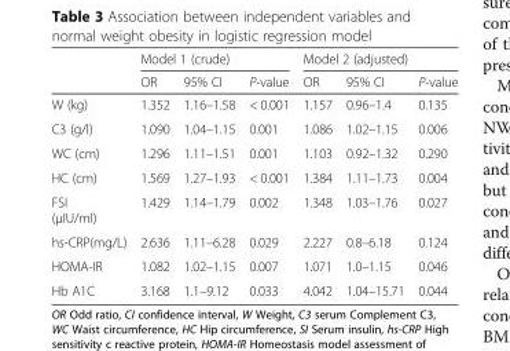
<table><thead><tr><td rowspan="2"></td><td colspan="3">Model 1 (crude)</td><td colspan="3">Model 2 (adjusted)</td></tr><tr><td>OR</td><td>95% CI</td><td>P-value</td><td>OR</td><td>95% CI</td><td>P-value</td></tr></thead><tbody><tr><td>W (kg)</td><td>1.352</td><td>1.16–1.58</td><td>&lt; 0.001</td><td>1.157</td><td>0.96–1.4</td><td>0.135</td></tr><tr><td>C3 (g/l)</td><td>1.090</td><td>1.04–1.15</td><td>0.001</td><td>1.086</td><td>1.02–1.15</td><td>0.006</td></tr><tr><td>WC (cm)</td><td>1.296</td><td>1.11–1.51</td><td>0.001</td><td>1.103</td><td>0.92–1.32</td><td>0.290</td></tr><tr><td>HC (cm)</td><td>1.569</td><td>1.27–1.93</td><td>&lt; 0.001</td><td>1.384</td><td>1.11–1.73</td><td>0.004</td></tr><tr><td>FSI (μIU/ml)</td><td>1.429</td><td>1.14–1.79</td><td>0.002</td><td>1.348</td><td>1.03–1.76</td><td>0.027</td></tr><tr><td>hs-CRP(mg/L)</td><td>2.636</td><td>1.11–6.28</td><td>0.029</td><td>2.227</td><td>0.8–6.18</td><td>0.124</td></tr><tr><td>HOMA-IR</td><td>1.082</td><td>1.02–1.15</td><td>0.007</td><td>1.071</td><td>1.0–1.15</td><td>0.046</td></tr><tr><td>Hb A1C</td><td>3.168</td><td>1.1–9.12</td><td>0.033</td><td>4.042</td><td>1.04–15.71</td><td>0.044</td></tr></tbody></table>